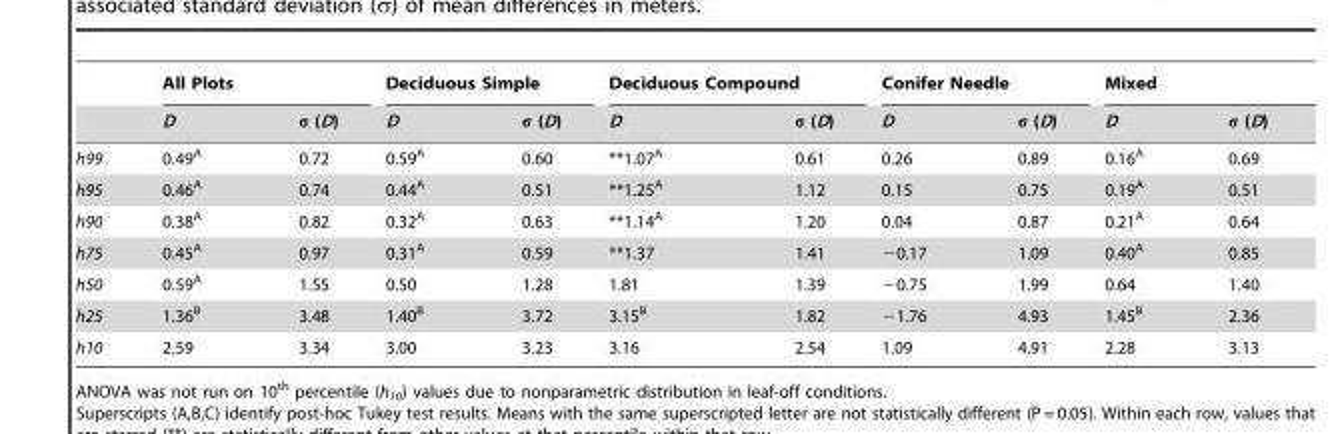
<table><thead><tr><td rowspan="2"></td><td colspan="2">All Plots</td><td colspan="2">Deciduous Simple</td><td colspan="2">Deciduous Compound</td><td colspan="2">Conifer Needle</td><td colspan="2">Mixed</td></tr><tr><td>D</td><td>σ (D)</td><td>D</td><td>σ (D)</td><td>D</td><td>σ (D)</td><td>D</td><td>σ (D)</td><td>D</td><td>σ (D)</td></tr></thead><tbody><tr><td>h99</td><td>0.49<sup>A</sup></td><td>0.72</td><td>0.59<sup>A</sup></td><td>0.60</td><td>**1.07<sup>A</sup></td><td>0.61</td><td>0.26</td><td>0.89</td><td>0.16<sup>A</sup></td><td>0.69</td></tr><tr><td>h95</td><td>0.46<sup>A</sup></td><td>0.74</td><td>0.44<sup>A</sup></td><td>0.51</td><td>**1.25<sup>A</sup></td><td>1.12</td><td>0.15</td><td>0.75</td><td>0.19<sup>A</sup></td><td>0.51</td></tr><tr><td>h90</td><td>0.38<sup>A</sup></td><td>0.82</td><td>0.32<sup>A</sup></td><td>0.63</td><td>**1.14<sup>A</sup></td><td>1.20</td><td>0.04</td><td>0.87</td><td>0.21<sup>A</sup></td><td>0.64</td></tr><tr><td>h75</td><td>0.45<sup>A</sup></td><td>0.97</td><td>0.31<sup>A</sup></td><td>0.59</td><td>**1.37</td><td>1.41</td><td>−0.17</td><td>1.09</td><td>0.40<sup>A</sup></td><td>0.85</td></tr><tr><td>h50</td><td>0.59<sup>A</sup></td><td>1.55</td><td>0.50</td><td>1.28</td><td>1.81</td><td>1.39</td><td>−0.75</td><td>1.99</td><td>0.64</td><td>1.40</td></tr><tr><td>h25</td><td>1.36<sup>B</sup></td><td>3.48</td><td>1.40<sup>B</sup></td><td>3.72</td><td>3.15<sup>B</sup></td><td>1.82</td><td>−1.76</td><td>4.93</td><td>1.45<sup>B</sup></td><td>2.36</td></tr><tr><td>h10</td><td>2.59</td><td>3.34</td><td>3.00</td><td>3.23</td><td>3.16</td><td>2.54</td><td>1.09</td><td>4.91</td><td>2.28</td><td>3.13</td></tr></tbody></table>